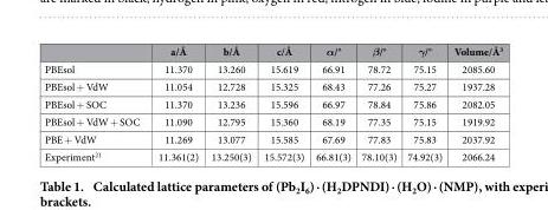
<table><thead><tr><td></td><td>a/Å</td><td>b/Å</td><td>c/Å</td><td>α/°</td><td>β/°</td><td>γ/°</td><td>Volume/Å<sup>3</sup></td></tr></thead><tbody><tr><td>PBEsol</td><td>11.370</td><td>13.260</td><td>15.619</td><td>66.91</td><td>78.72</td><td>75.15</td><td>2085.60</td></tr><tr><td>PBEsol + VdW</td><td>11.054</td><td>12.728</td><td>15.325</td><td>68.43</td><td>77.26</td><td>75.27</td><td>1937.28</td></tr><tr><td>PBEsol + SOC</td><td>11.370</td><td>13.236</td><td>15.596</td><td>66.97</td><td>78.84</td><td>75.86</td><td>2082.05</td></tr><tr><td>PBEsol + VdW + SOC</td><td>11.090</td><td>12.795</td><td>15.360</td><td>68.19</td><td>77.35</td><td>75.15</td><td>1919.92</td></tr><tr><td>PBE + VdW</td><td>11.269</td><td>13.077</td><td>15.585</td><td>67.69</td><td>77.83</td><td>75.83</td><td>2037.92</td></tr><tr><td>Experiment<sup>21</sup></td><td>11.361(2)</td><td>13.250(3)</td><td>15.572(3)</td><td>66.81(3)</td><td>78.10(3)</td><td>74.92(3)</td><td>2066.24</td></tr></tbody></table>